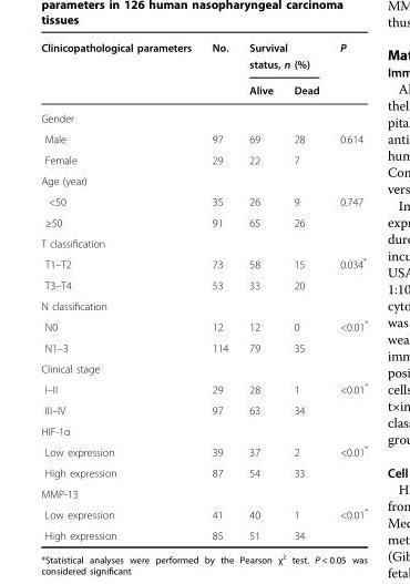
<table><thead><tr><td rowspan="2">Clinicopathological parameters</td><td rowspan="2">No.</td><td colspan="2">Survival status, n (%)</td><td rowspan="2">P</td></tr><tr><td>Alive</td><td>Dead</td></tr></thead><tbody><tr><td colspan="5">Gender</td></tr><tr><td>Male</td><td>97</td><td>69</td><td>28</td><td>0.614</td></tr><tr><td>Female</td><td>29</td><td>22</td><td>7</td><td></td></tr><tr><td colspan="5">Age (year)</td></tr><tr><td>&lt;50</td><td>35</td><td>26</td><td>9</td><td>0.747</td></tr><tr><td>≥50</td><td>91</td><td>65</td><td>26</td><td></td></tr><tr><td colspan="5">T classification</td></tr><tr><td>T1–T2</td><td>73</td><td>58</td><td>15</td><td>0.034*</td></tr><tr><td>T3–T4</td><td>53</td><td>33</td><td>20</td><td></td></tr><tr><td colspan="5">N classification</td></tr><tr><td>N0</td><td>12</td><td>12</td><td>0</td><td>&lt;0.01*</td></tr><tr><td>N1–3</td><td>114</td><td>79</td><td>35</td><td></td></tr><tr><td colspan="5">Clinical stage</td></tr><tr><td>I–II</td><td>29</td><td>28</td><td>1</td><td>&lt;0.01*</td></tr><tr><td>III–IV</td><td>97</td><td>63</td><td>34</td><td></td></tr><tr><td colspan="5">HIF-1α</td></tr><tr><td>Low expression</td><td>39</td><td>37</td><td>2</td><td>&lt;0.01*</td></tr><tr><td>High expression</td><td>87</td><td>54</td><td>33</td><td></td></tr><tr><td colspan="5">MMP-13</td></tr><tr><td>Low expression</td><td>41</td><td>40</td><td>1</td><td>&lt;0.01*</td></tr><tr><td>High expression</td><td>85</td><td>51</td><td>34</td><td></td></tr></tbody></table>